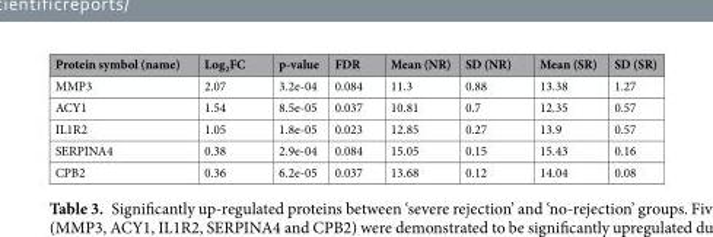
<table><thead><tr><td>Protein symbol (name)</td><td>Log<sub>2</sub>FC</td><td>p-value</td><td>FDR</td><td>Mean (NR)</td><td>SD (NR)</td><td>Mean (SR)</td><td>SD (SR)</td></tr></thead><tbody><tr><td>MMP3</td><td>2.07</td><td>3.2e-04</td><td>0.084</td><td>11.3</td><td>0.88</td><td>13.38</td><td>1.27</td></tr><tr><td>ACY1</td><td>1.54</td><td>8.5e-05</td><td>0.037</td><td>10.81</td><td>0.7</td><td>12.35</td><td>0.57</td></tr><tr><td>IL1R2</td><td>1.05</td><td>1.8e-05</td><td>0.023</td><td>12.85</td><td>0.27</td><td>13.9</td><td>0.57</td></tr><tr><td>SERPINA4</td><td>0.38</td><td>2.9e-04</td><td>0.084</td><td>15.05</td><td>0.15</td><td>15.43</td><td>0.16</td></tr><tr><td>CPB2</td><td>0.36</td><td>6.2e-05</td><td>0.037</td><td>13.68</td><td>0.12</td><td>14.04</td><td>0.08</td></tr></tbody></table>